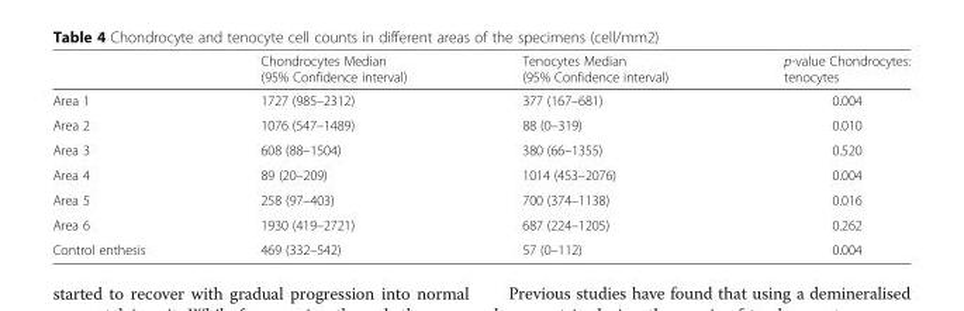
<table><thead><tr><td></td><td>Chondrocytes Median (95% Confidence interval)</td><td>Tenocytes Median (95% Confidence interval)</td><td>p-value Chondrocytes: tenocytes</td></tr></thead><tbody><tr><td>Area 1</td><td>1727 (985–2312)</td><td>377 (167–681)</td><td>0.004</td></tr><tr><td>Area 2</td><td>1076 (547–1489)</td><td>88 (0–319)</td><td>0.010</td></tr><tr><td>Area 3</td><td>608 (88–1504)</td><td>380 (66–1355)</td><td>0.520</td></tr><tr><td>Area 4</td><td>89 (20–209)</td><td>1014 (453–2076)</td><td>0.004</td></tr><tr><td>Area 5</td><td>258 (97–403)</td><td>700 (374–1138)</td><td>0.016</td></tr><tr><td>Area 6</td><td>1930 (419–2721)</td><td>687 (224–1205)</td><td>0.262</td></tr><tr><td>Control enthesis</td><td>469 (332–542)</td><td>57 (0–112)</td><td>0.004</td></tr></tbody></table>